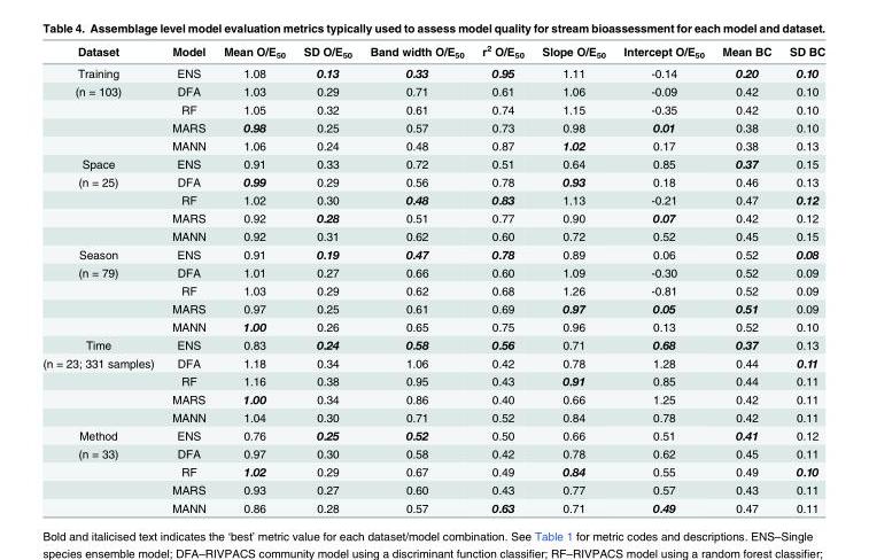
<table><thead><tr><td>Dataset</td><td>Model</td><td>Mean O/E<sub>50</sub></td><td>SD O/E<sub>50</sub></td><td>Band width O/E<sub>50</sub></td><td>r<sup>2</sup> O/E<sub>50</sub></td><td>Slope O/E<sub>50</sub></td><td>Intercept O/E<sub>50</sub></td><td>Mean BC</td><td>SD BC</td></tr></thead><tbody><tr><td>Training</td><td>ENS</td><td>1.08</td><td>0.13</td><td>0.33</td><td>0.95</td><td>1.11</td><td>-0.14</td><td>0.20</td><td>0.10</td></tr><tr><td rowspan="4">(n = 103)</td><td>DFA</td><td>1.03</td><td>0.29</td><td>0.71</td><td>0.61</td><td>1.06</td><td>-0.09</td><td>0.42</td><td>0.10</td></tr><tr><td>RF</td><td>1.05</td><td>0.32</td><td>0.61</td><td>0.74</td><td>1.15</td><td>-0.35</td><td>0.42</td><td>0.10</td></tr><tr><td>MARS</td><td>0.98</td><td>0.25</td><td>0.57</td><td>0.73</td><td>0.98</td><td>0.01</td><td>0.38</td><td>0.10</td></tr><tr><td>MANN</td><td>1.06</td><td>0.24</td><td>0.48</td><td>0.87</td><td>1.02</td><td>0.17</td><td>0.38</td><td>0.13</td></tr><tr><td>Space</td><td>ENS</td><td>0.91</td><td>0.33</td><td>0.72</td><td>0.51</td><td>0.64</td><td>0.85</td><td>0.37</td><td>0.15</td></tr><tr><td rowspan="4">(n = 25)</td><td>DFA</td><td>0.99</td><td>0.29</td><td>0.56</td><td>0.78</td><td>0.93</td><td>0.18</td><td>0.46</td><td>0.13</td></tr><tr><td>RF</td><td>1.02</td><td>0.30</td><td>0.48</td><td>0.83</td><td>1.13</td><td>-0.21</td><td>0.47</td><td>0.12</td></tr><tr><td>MARS</td><td>0.92</td><td>0.28</td><td>0.51</td><td>0.77</td><td>0.90</td><td>0.07</td><td>0.42</td><td>0.12</td></tr><tr><td>MANN</td><td>0.92</td><td>0.31</td><td>0.62</td><td>0.60</td><td>0.72</td><td>0.52</td><td>0.45</td><td>0.15</td></tr><tr><td>Season</td><td>ENS</td><td>0.91</td><td>0.19</td><td>0.47</td><td>0.78</td><td>0.89</td><td>0.06</td><td>0.52</td><td>0.08</td></tr><tr><td rowspan="4">(n = 79)</td><td>DFA</td><td>1.01</td><td>0.27</td><td>0.66</td><td>0.60</td><td>1.09</td><td>-0.30</td><td>0.52</td><td>0.09</td></tr><tr><td>RF</td><td>1.03</td><td>0.29</td><td>0.62</td><td>0.68</td><td>1.26</td><td>-0.81</td><td>0.52</td><td>0.09</td></tr><tr><td>MARS</td><td>0.97</td><td>0.25</td><td>0.61</td><td>0.69</td><td>0.97</td><td>0.05</td><td>0.51</td><td>0.09</td></tr><tr><td>MANN</td><td>1.00</td><td>0.26</td><td>0.65</td><td>0.75</td><td>0.96</td><td>0.13</td><td>0.52</td><td>0.10</td></tr><tr><td>Time</td><td>ENS</td><td>0.83</td><td>0.24</td><td>0.58</td><td>0.56</td><td>0.71</td><td>0.68</td><td>0.37</td><td>0.13</td></tr><tr><td rowspan="4">(n = 23; 331 samples)</td><td>DFA</td><td>1.18</td><td>0.34</td><td>1.06</td><td>0.42</td><td>0.78</td><td>1.28</td><td>0.44</td><td>0.11</td></tr><tr><td>RF</td><td>1.16</td><td>0.38</td><td>0.95</td><td>0.43</td><td>0.91</td><td>0.85</td><td>0.44</td><td>0.11</td></tr><tr><td>MARS</td><td>1.00</td><td>0.34</td><td>0.86</td><td>0.40</td><td>0.66</td><td>1.25</td><td>0.42</td><td>0.11</td></tr><tr><td>MANN</td><td>1.04</td><td>0.30</td><td>0.71</td><td>0.52</td><td>0.84</td><td>0.78</td><td>0.42</td><td>0.11</td></tr><tr><td>Method</td><td>ENS</td><td>0.76</td><td>0.25</td><td>0.52</td><td>0.50</td><td>0.66</td><td>0.51</td><td>0.41</td><td>0.12</td></tr><tr><td rowspan="4">(n = 33)</td><td>DFA</td><td>0.97</td><td>0.30</td><td>0.58</td><td>0.42</td><td>0.78</td><td>0.62</td><td>0.45</td><td>0.11</td></tr><tr><td>RF</td><td>1.02</td><td>0.29</td><td>0.67</td><td>0.49</td><td>0.84</td><td>0.55</td><td>0.49</td><td>0.10</td></tr><tr><td>MARS</td><td>0.93</td><td>0.27</td><td>0.60</td><td>0.43</td><td>0.77</td><td>0.57</td><td>0.43</td><td>0.11</td></tr><tr><td>MANN</td><td>0.86</td><td>0.28</td><td>0.57</td><td>0.63</td><td>0.71</td><td>0.49</td><td>0.47</td><td>0.11</td></tr></tbody></table>